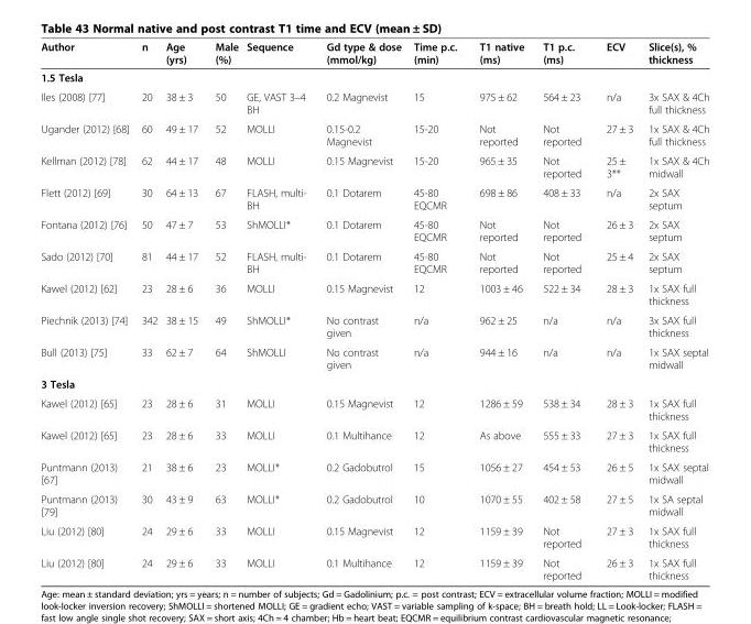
<table><thead><tr><td>Author</td><td>n</td><td>Age (yrs)</td><td>Male (%)</td><td>Sequence</td><td>Gd type &amp; dose (mmol/kg)</td><td>Time p.c. (min)</td><td>T1 native (ms)</td><td>T1 p.c. (ms)</td><td>ECV</td><td>Slice(s), % thickness</td></tr></thead><tbody><tr><td colspan="11">1.5 Tesla</td></tr><tr><td>Iles (2008) [77]</td><td>20</td><td>38 ± 3</td><td>50</td><td>GE, VAST 3–4 BH</td><td>0.2 Magnevist</td><td>15</td><td>975 ± 62</td><td>564 ± 23</td><td>n/a</td><td>3x SAX &amp; 4Ch full thickness</td></tr><tr><td>Ugander (2012) [68]</td><td>60</td><td>49 ± 17</td><td>52</td><td>MOLLI</td><td>0.15-0.2 Magnevist</td><td>15-20</td><td>Not reported</td><td>Not reported</td><td>27 ± 3</td><td>1x SAX &amp; 4Ch full thickness</td></tr><tr><td>Kellman (2012) [78]</td><td>62</td><td>44 ± 17</td><td>48</td><td>MOLLI</td><td>0.15 Magnevist</td><td>15-20</td><td>965 ± 35</td><td>Not reported</td><td>25 ± 3**</td><td>1x SAX &amp; 4Ch midwall</td></tr><tr><td>Flett (2012) [69]</td><td>30</td><td>64 ± 13</td><td>67</td><td>FLASH, multi- BH</td><td>0.1 Dotarem</td><td>45-80 EQCMR</td><td>698 ± 86</td><td>408 ± 33</td><td>n/a</td><td>2x SAX septum</td></tr><tr><td>Fontana (2012) [76]</td><td>50</td><td>47 ± 7</td><td>53</td><td>ShMOLLI*</td><td>0.1 Dotarem</td><td>45-80 EQCMR</td><td>Not reported</td><td>Not reported</td><td>26 ± 3</td><td>2x SAX septum</td></tr><tr><td>Sado (2012) [70]</td><td>81</td><td>44 ± 17</td><td>52</td><td>FLASH, multi- BH</td><td>0.1 Dotarem</td><td>45-80 EQCMR</td><td>Not reported</td><td>Not reported</td><td>25 ± 4</td><td>2x SAX septum</td></tr><tr><td>Kawel (2012) [62]</td><td>23</td><td>28 ± 6</td><td>36</td><td>MOLLI</td><td>0.15 Magnevist</td><td>12</td><td>1003 ± 46</td><td>522 ± 34</td><td>28 ± 3</td><td>1x SAX full thickness</td></tr><tr><td>Piechnik (2013) [74]</td><td>342</td><td>38 ± 15</td><td>49</td><td>ShMOLLI*</td><td>No contrast given</td><td>n/a</td><td>962 ± 25</td><td>n/a</td><td>n/a</td><td>3x SAX full thickness</td></tr><tr><td>Bull (2013) [75]</td><td>33</td><td>62 ± 7</td><td>64</td><td>ShMOLLI</td><td>No contrast given</td><td>n/a</td><td>944 ± 16</td><td>n/a</td><td>n/a</td><td>1x SAX septal midwall</td></tr><tr><td colspan="11">3 Tesla</td></tr><tr><td>Kawel (2012) [65]</td><td>23</td><td>28 ± 6</td><td>31</td><td>MOLLI</td><td>0.15 Magnevist</td><td>12</td><td>1286 ± 59</td><td>538 ± 34</td><td>28 ± 3</td><td>1x SAX full thickness</td></tr><tr><td>Kawel (2012) [65]</td><td>23</td><td>28 ± 6</td><td>33</td><td>MOLLI</td><td>0.1 Multihance</td><td>12</td><td>As above</td><td>555 ± 33</td><td>27 ± 3</td><td>1x SAX full thickness</td></tr><tr><td>Puntmann (2013) [67]</td><td>21</td><td>38 ± 6</td><td>23</td><td>MOLLI*</td><td>0.2 Gadobutrol</td><td>15</td><td>1056 ± 27</td><td>454 ± 53</td><td>26 ± 5</td><td>1x SAX septal midwall</td></tr><tr><td>Puntmann (2013) [79]</td><td>30</td><td>43 ± 9</td><td>63</td><td>MOLLI*</td><td>0.2 Gadobutrol</td><td>10</td><td>1070 ± 55</td><td>402 ± 58</td><td>27 ± 5</td><td>1x SA septal midwall</td></tr><tr><td>Liu (2012) [80]</td><td>24</td><td>29 ± 6</td><td>33</td><td>MOLLI</td><td>0.15 Magnevist</td><td>12</td><td>1159 ± 39</td><td>Not reported</td><td>27 ± 3</td><td>1x SAX full thickness</td></tr><tr><td>Liu (2012) [80]</td><td>24</td><td>29 ± 6</td><td>33</td><td>MOLLI</td><td>0.1 Multihance</td><td>12</td><td>1159 ± 39</td><td>Not reported</td><td>26 ± 3</td><td>1x SAX full thickness</td></tr></tbody></table>